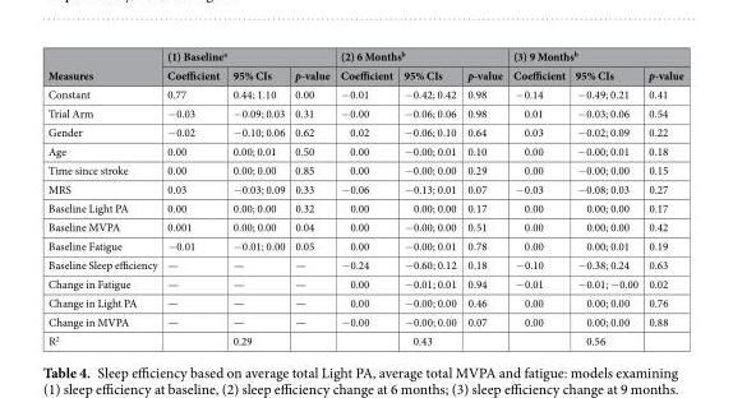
<table><thead><tr><td rowspan="2">Measures</td><td colspan="3">(1) Baseline<sup>a</sup></td><td colspan="3">(2) 6 Months<sup>b</sup></td><td colspan="3">(3) 9 Months<sup>b</sup></td></tr><tr><td>Coefficient</td><td>95% CIs</td><td>p-value</td><td>Coefficient</td><td>95% CIs</td><td>p-value</td><td>Coefficient</td><td>95% CIs</td><td>p-value</td></tr></thead><tbody><tr><td>Constant</td><td>0.77</td><td>0.44; 1.10</td><td>0.00</td><td>−0.01</td><td>−0.42; 0.42</td><td>0.98</td><td>−0.14</td><td>−0.49; 0.21</td><td>0.41</td></tr><tr><td>Trial Arm</td><td>−0.03</td><td>−0.09; 0.03</td><td>0.31</td><td>−0.00</td><td>−0.06; 0.06</td><td>0.98</td><td>0.01</td><td>−0.03; 0.06</td><td>0.54</td></tr><tr><td>Gender</td><td>−0.02</td><td>−0.10; 0.06</td><td>0.62</td><td>0.02</td><td>−0.06; 0.10</td><td>0.64</td><td>0.03</td><td>−0.02; 0.09</td><td>0.22</td></tr><tr><td>Age</td><td>0.00</td><td>0.00; 0.01</td><td>0.50</td><td>0.00</td><td>−0.00; 0.01</td><td>0.10</td><td>0.00</td><td>−0.00; 0.01</td><td>0.18</td></tr><tr><td>Time since stroke</td><td>0.00</td><td>0.00; 0.00</td><td>0.85</td><td>0.00</td><td>−0.00; 0.00</td><td>0.29</td><td>0.00</td><td>−0.00; 0.00</td><td>0.15</td></tr><tr><td>MRS</td><td>0.03</td><td>−0.03; 0.09</td><td>0.33</td><td>−0.06</td><td>−0.13; 0.01</td><td>0.07</td><td>−0.03</td><td>−0.08; 0.03</td><td>0.27</td></tr><tr><td>Baseline Light PA</td><td>0.00</td><td>0.00; 0.00</td><td>0.32</td><td>0.00</td><td>0.00; 0.00</td><td>0.17</td><td>0.00</td><td>0.00; 0.00</td><td>0.17</td></tr><tr><td>Baseline MVPA</td><td>0.001</td><td>0.00; 0.00</td><td>0.04</td><td>0.00</td><td>−0.00; 0.00</td><td>0.51</td><td>0.00</td><td>0.00; 0.00</td><td>0.42</td></tr><tr><td>Baseline Fatigue</td><td>−0.01</td><td>−0.01; 0.00</td><td>0.05</td><td>0.00</td><td>−0.00; 0.01</td><td>0.78</td><td>0.00</td><td>0.00; 0.01</td><td>0.19</td></tr><tr><td>Baseline Sleep efficiency</td><td>—</td><td>—</td><td>—</td><td>−0.24</td><td>−0.60; 0.12</td><td>0.18</td><td>−0.10</td><td>−0.38; 0.24</td><td>0.63</td></tr><tr><td>Change in Fatigue</td><td>—</td><td>—</td><td>—</td><td>0.00</td><td>−0.01; 0.01</td><td>0.94</td><td>−0.01</td><td>−0.01; −0.00</td><td>0.02</td></tr><tr><td>Change in Light PA</td><td>—</td><td>—</td><td>—</td><td>0.00</td><td>−0.00; 0.00</td><td>0.46</td><td>0.00</td><td>0.00; 0.00</td><td>0.76</td></tr><tr><td>Change in MVPA</td><td>—</td><td>—</td><td>—</td><td>−0.00</td><td>−0.00; 0.00</td><td>0.07</td><td>0.00</td><td>0.00; 0.00</td><td>0.88</td></tr><tr><td>R<sup>2</sup></td><td></td><td>0.29</td><td></td><td></td><td>0.43</td><td></td><td></td><td>0.56</td><td></td></tr></tbody></table>